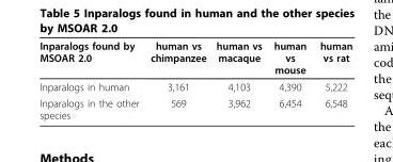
<table><thead><tr><td>Inparalogs found by MSOAR 2.0</td><td>human vs chimpanzee</td><td>human vs macaque</td><td>human vs mouse</td><td>human vs rat</td></tr></thead><tbody><tr><td>Inparalogs in human</td><td>3,161</td><td>4,103</td><td>4,390</td><td>5,222</td></tr><tr><td>Inparalogs in the other species</td><td>569</td><td>3,962</td><td>6,454</td><td>6,548</td></tr></tbody></table>